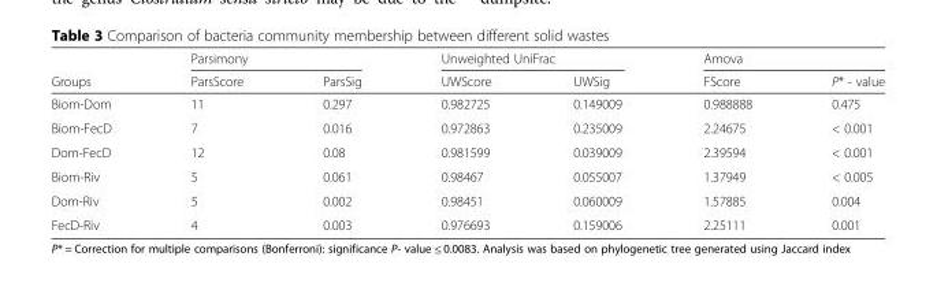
<table><thead><tr><td rowspan="2">Groups</td><td colspan="2">Parsimony</td><td colspan="2">Unweighted UniFrac</td><td colspan="2">Amova</td></tr><tr><td>ParsScore</td><td>ParsSig</td><td>UWScore</td><td>UWSig</td><td>FScore</td><td>P* - value</td></tr></thead><tbody><tr><td>Biom-Dom</td><td>11</td><td>0.297</td><td>0.982725</td><td>0.149009</td><td>0.988888</td><td>0.475</td></tr><tr><td>Biom-FecD</td><td>7</td><td>0.016</td><td>0.972863</td><td>0.235009</td><td>2.24675</td><td>&lt; 0.001</td></tr><tr><td>Dom-FecD</td><td>12</td><td>0.08</td><td>0.981599</td><td>0.039009</td><td>2.39594</td><td>&lt; 0.001</td></tr><tr><td>Biom-Riv</td><td>5</td><td>0.061</td><td>0.98467</td><td>0.055007</td><td>1.37949</td><td>&lt; 0.005</td></tr><tr><td>Dom-Riv</td><td>5</td><td>0.002</td><td>0.98451</td><td>0.060009</td><td>1.57885</td><td>0.004</td></tr><tr><td>FecD-Riv</td><td>4</td><td>0.003</td><td>0.976693</td><td>0.159006</td><td>2.25111</td><td>0.001</td></tr></tbody></table>